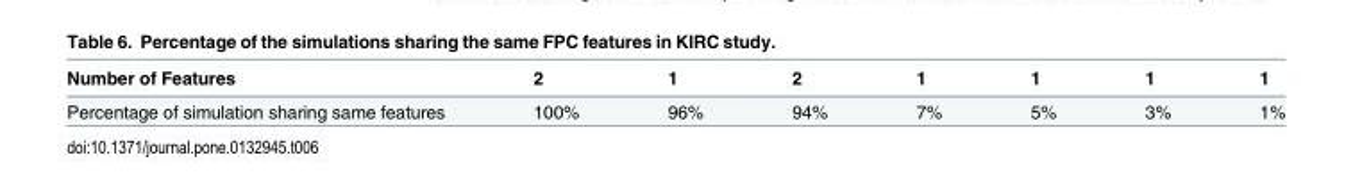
<table><thead><tr><td>Number of Features</td><td>2</td><td>1</td><td>2</td><td>1</td><td>1</td><td>1</td><td>1</td></tr></thead><tbody><tr><td>Percentage of simulation sharing same features</td><td>100%</td><td>96%</td><td>94%</td><td>7%</td><td>5%</td><td>3%</td><td>1%</td></tr></tbody></table>